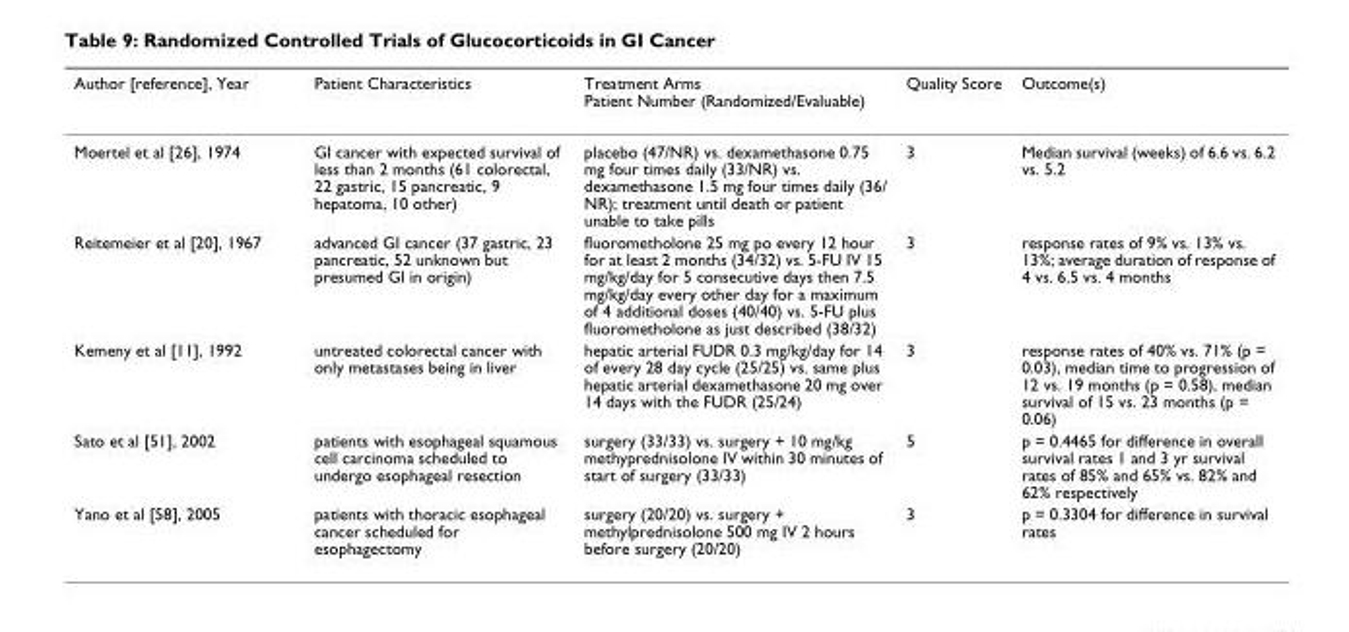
<table><thead><tr><td>Author [reference], Year</td><td>Patient Characteristics</td><td>Treatment Arms Patient Number (Randomized/Evaluable)</td><td>Quality Score</td><td>Outcome(s)</td></tr></thead><tbody><tr><td>Moertel et al [26], 1974</td><td>GI cancer with expected survival of less than 2 months (61 colorectal, 22 gastric, 15 pancreatic, 9 hepatoma, 10 other)</td><td>placebo (47/NR) vs. dexamethasone 0.75 mg four times daily (33/NR) vs. dexamethasone 1.5 mg four times daily (36/ NR); treatment until death or patient unable to take pills</td><td>3</td><td>Median survival (weeks) of 6.6 vs. 6.2 vs. 5.2</td></tr><tr><td>Reitemeier et al [20], 1967</td><td>advanced GI cancer (37 gastric, 23 pancreatic, 52 unknown but presumed GI in origin)</td><td>fluorometholone 25 mg po every 12 hour for at least 2 months (34/32) vs. 5-FU IV 15 mg/kg/day for 5 consecutive days then 7.5 mg/kg/day every other day for a maximum of 4 additional doses (40/40) vs. 5-FU plus fluorometholone as just described (38/32)</td><td>3</td><td>response rates of 9% vs. 13% vs. 13%; average duration of response of 4 vs. 6.5 vs. 4 months</td></tr><tr><td>Kemeny et al [11], 1992</td><td>untreated colorectal cancer with only metastases being in liver</td><td>hepatic arterial FUDR 0.3 mg/kg/day for 14 of every 28 day cycle (25/25) vs. same plus hepatic arterial dexamethasone 20 mg over 14 days with the FUDR (25/24)</td><td>3</td><td>response rates of 40% vs. 71% (p = 0.03), median time to progression of 12 vs. 19 months (p = 0.58), median survival of 15 vs. 23 months (p = 0.06)</td></tr><tr><td>Sato et al [51], 2002</td><td>patients with esophageal squamous cell carcinoma scheduled to undergo esophageal resection</td><td>surgery (33/33) vs. surgery + 10 mg/kg methyprednisolone IV within 30 minutes of start of surgery (33/33)</td><td>5</td><td>p = 0.4465 for difference in overall survival rates 1 and 3 yr survival rates of 85% and 65% vs. 82% and 62% respectively</td></tr><tr><td>Yano et al [58], 2005</td><td>patients with thoracic esophageal cancer scheduled for esophagectomy</td><td>surgery (20/20) vs. surgery + methylprednisolone 500 mg IV 2 hours before surgery (20/20)</td><td>3</td><td>p = 0.3304 for difference in survival rates</td></tr></tbody></table>